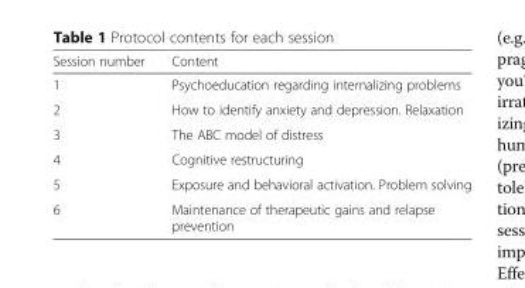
<table><thead><tr><td>Session number</td><td>Content</td></tr></thead><tbody><tr><td>1</td><td>Psychoeducation regarding internalizing problems</td></tr><tr><td>2</td><td>How to identify anxiety and depression. Relaxation</td></tr><tr><td>3</td><td>The ABC model of distress</td></tr><tr><td>4</td><td>Cognitive restructuring</td></tr><tr><td>5</td><td>Exposure and behavioral activation. Problem solving</td></tr><tr><td>6</td><td>Maintenance of therapeutic gains and relapse prevention</td></tr></tbody></table>